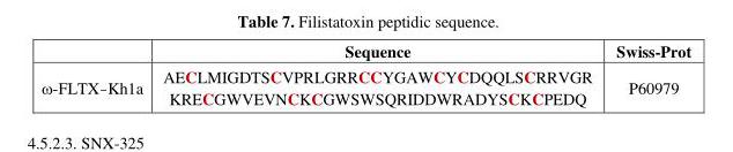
<table><thead><tr><td></td><td>Sequence</td><td>Swiss-Prot</td></tr></thead><tbody><tr><td>ω-FLTX-Kh1a</td><td>AECLMIGDTSCVPRLGRRCCYGAWCYCDQQLSCRRVGR KRECGWVEVNCKCGWSWSQRIDDWRADYSCKCPEDQ</td><td>P60979</td></tr></tbody></table>